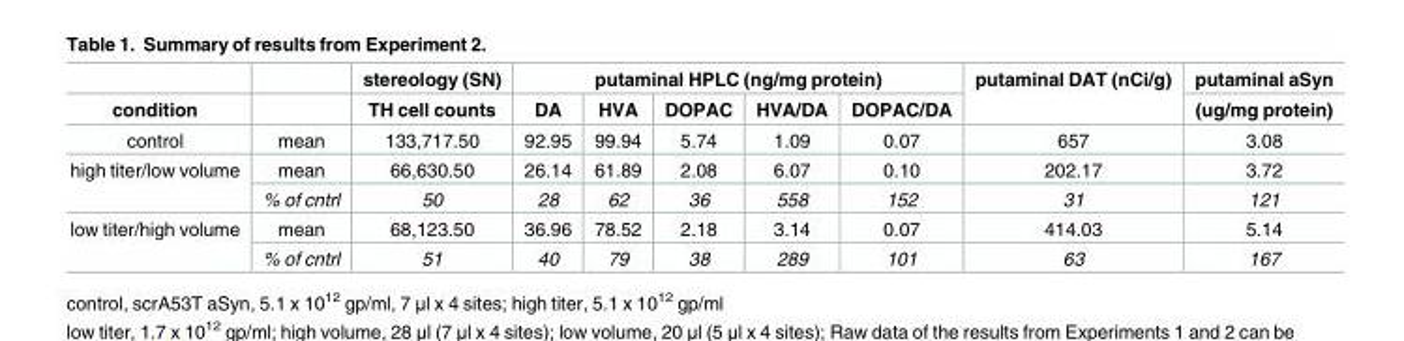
<table><thead><tr><td rowspan="2">condition</td><td rowspan="2"></td><td rowspan="2">stereology (SN) TH cell counts</td><td colspan="5">putaminal HPLC (ng/mg protein)</td><td rowspan="2">putaminal DAT (nCi/g)</td><td rowspan="2">putaminal aSyn (ug/mg protein)</td></tr><tr><td>DA</td><td>HVA</td><td>DOPAC</td><td>HVA/DA</td><td>DOPAC/DA</td></tr></thead><tbody><tr><td>control</td><td>mean</td><td>133,717.50</td><td>92.95</td><td>99.94</td><td>5.74</td><td>1.09</td><td>0.07</td><td>657</td><td>3.08</td></tr><tr><td rowspan="2">high titer/low volume</td><td>mean</td><td>66,630.50</td><td>26.14</td><td>61.89</td><td>2.08</td><td>6.07</td><td>0.10</td><td>202.17</td><td>3.72</td></tr><tr><td>% of cntrl</td><td>50</td><td>28</td><td>62</td><td>36</td><td>558</td><td>152</td><td>31</td><td>121</td></tr><tr><td rowspan="2">low titer/high volume</td><td>mean</td><td>68,123.50</td><td>36.96</td><td>78.52</td><td>2.18</td><td>3.14</td><td>0.07</td><td>414.03</td><td>5.14</td></tr><tr><td>% of cntrl</td><td>51</td><td>40</td><td>79</td><td>38</td><td>289</td><td>101</td><td>63</td><td>167</td></tr></tbody></table>